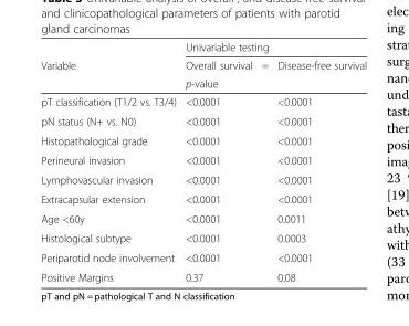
<table><thead><tr><td rowspan="3">Variable</td><td colspan="3">Univariable testing</td></tr><tr><td>Overall survival</td><td>=</td><td>Disease-free survival</td></tr><tr><td colspan="3">p-value</td></tr></thead><tbody><tr><td>pT classification (T1/2 vs. T3/4)</td><td>&lt;0.0001</td><td></td><td>&lt;0.0001</td></tr><tr><td>pN status (N+ vs. N0)</td><td>&lt;0.0001</td><td></td><td>&lt;0.0001</td></tr><tr><td>Histopathological grade</td><td>&lt;0.0001</td><td></td><td>&lt;0.0001</td></tr><tr><td>Perineural invasion</td><td>&lt;0.0001</td><td></td><td>&lt;0.0001</td></tr><tr><td>Lymphovascular invasion</td><td>&lt;0.0001</td><td></td><td>&lt;0.0001</td></tr><tr><td>Extracapsular extension</td><td>&lt;0.0001</td><td></td><td>&lt;0.0001</td></tr><tr><td>Age &lt;60y</td><td>&lt;0.0001</td><td></td><td>0.0011</td></tr><tr><td>Histological subtype</td><td>&lt;0.0001</td><td></td><td>0.0003</td></tr><tr><td>Periparotid node involvement</td><td>&lt;0.0001</td><td></td><td>&lt;0.0001</td></tr><tr><td>Positive Margins</td><td>0.37</td><td></td><td>0.08</td></tr></tbody></table>